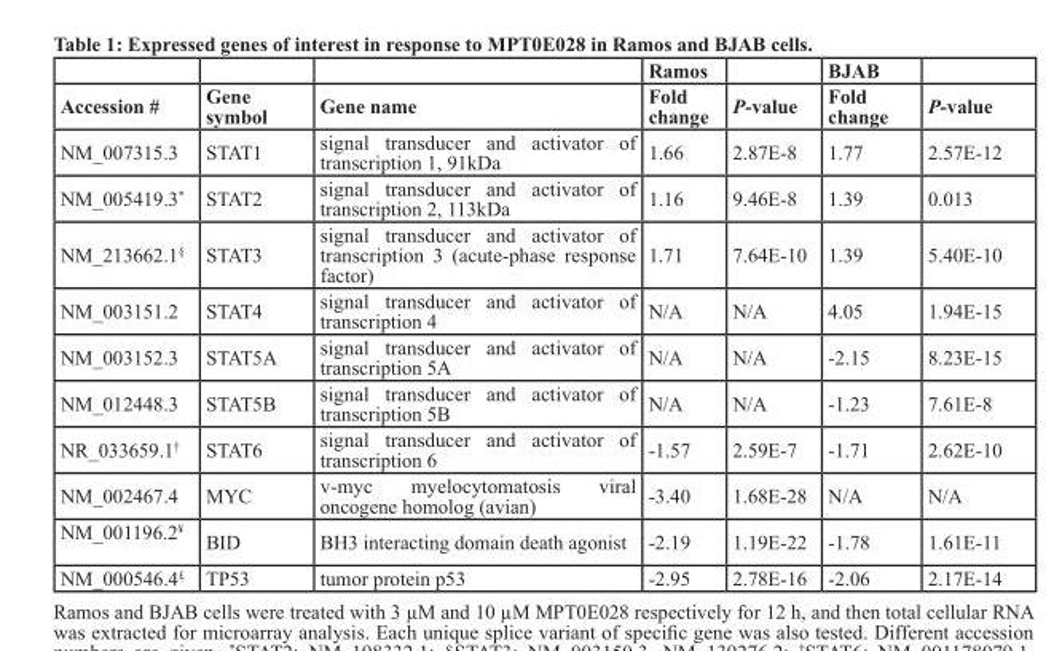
<table><thead><tr><td rowspan="2">Accession #</td><td rowspan="2">Gene symbol</td><td rowspan="2">Gene name</td><td rowspan="2">Ramos Fold change</td><td rowspan="2">P-value</td><td rowspan="2">BJAB Fold change</td><td rowspan="2">P-value</td></tr><tr></tr></thead><tbody><tr><td>NM_007315.3</td><td>STAT1</td><td>signal transducer and activator of transcription 1, 91kDa</td><td>1.66</td><td>2.87E-8</td><td>1.77</td><td>2.57E-12</td></tr><tr><td>NM_005419.3*</td><td>STAT2</td><td>signal transducer and activator of transcription 2, 113kDa</td><td>1.16</td><td>9.46E-8</td><td>1.39</td><td>0.013</td></tr><tr><td>NM_213662.1<sup>§</sup></td><td>STAT3</td><td>signal transducer and activator of transcription 3 (acute-phase response factor)</td><td>1.71</td><td>7.64E-10</td><td>1.39</td><td>5.40E-10</td></tr><tr><td>NM_003151.2</td><td>STAT4</td><td>signal transducer and activator of transcription 4</td><td>N/A</td><td>N/A</td><td>4.05</td><td>1.94E-15</td></tr><tr><td>NM_003152.3</td><td>STAT5A</td><td>signal transducer and activator of transcription 5A</td><td>N/A</td><td>N/A</td><td>-2.15</td><td>8.23E-15</td></tr><tr><td>NM_012448.3</td><td>STAT5B</td><td>signal transducer and activator of transcription 5B</td><td>N/A</td><td>N/A</td><td>-1.23</td><td>7.61E-8</td></tr><tr><td>NR_033659.1<sup>†</sup></td><td>STAT6</td><td>signal transducer and activator of transcription 6</td><td>-1.57</td><td>2.59E-7</td><td>-1.71</td><td>2.62E-10</td></tr><tr><td>NM_002467.4</td><td>MYC</td><td>v-myc myelocytomatosis viral oncogene homolog (avian)</td><td>-3.40</td><td>1.68E-28</td><td>N/A</td><td>N/A</td></tr><tr><td>NM_001196.2<sup>¥</sup></td><td>BID</td><td>BH3 interacting domain death agonist</td><td>-2.19</td><td>1.19E-22</td><td>-1.78</td><td>1.61E-11</td></tr><tr><td>NM_000546.4<sup>£</sup></td><td>TP53</td><td>tumor protein p53</td><td>-2.95</td><td>2.78E-16</td><td>-2.06</td><td>2.17E-14</td></tr></tbody></table>